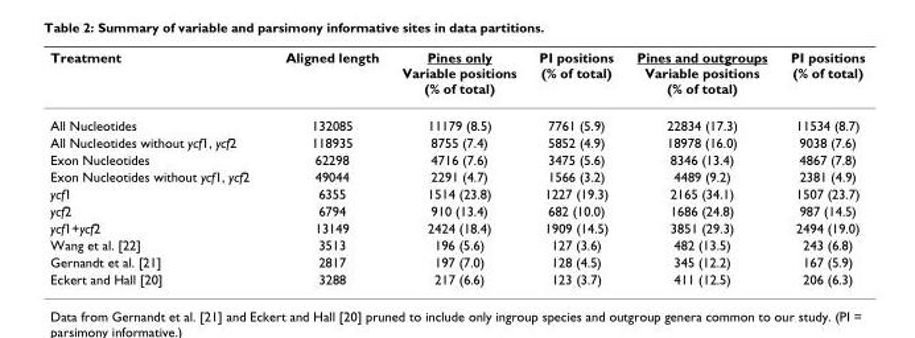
<table><thead><tr><td>Treatment</td><td>Aligned length</td><td>Pines only Variable positions (% of total)</td><td>PI positions (% of total)</td><td>Pines and outgroups Variable positions (% of total)</td><td>PI positions (% of total)</td></tr></thead><tbody><tr><td>All Nucleotides</td><td>132085</td><td>11179 (8.5)</td><td>7761 (5.9)</td><td>22834 (17.3)</td><td>11534 (8.7)</td></tr><tr><td>All Nucleotides without ycf1, ycf2</td><td>118935</td><td>8755 (7.4)</td><td>5852 (4.9)</td><td>18978 (16.0)</td><td>9038 (7.6)</td></tr><tr><td>Exon Nucleotides</td><td>62298</td><td>4716 (7.6)</td><td>3475 (5.6)</td><td>8346 (13.4)</td><td>4867 (7.8)</td></tr><tr><td>Exon Nucleotides without ycf1, ycf2</td><td>49044</td><td>2291 (4.7)</td><td>1566 (3.2)</td><td>4489 (9.2)</td><td>2381 (4.9)</td></tr><tr><td>ycf1</td><td>6355</td><td>1514 (23.8)</td><td>1227 (19.3)</td><td>2165 (34.1)</td><td>1507 (23.7)</td></tr><tr><td>ycf2</td><td>6794</td><td>910 (13.4)</td><td>682 (10.0)</td><td>1686 (24.8)</td><td>987 (14.5)</td></tr><tr><td>ycf1+ycf2</td><td>13149</td><td>2424 (18.4)</td><td>1909 (14.5)</td><td>3851 (29.3)</td><td>2494 (19.0)</td></tr><tr><td>Wang et al. [22]</td><td>3513</td><td>196 (5.6)</td><td>127 (3.6)</td><td>482 (13.5)</td><td>243 (6.8)</td></tr><tr><td>Gernandt et al. [21]</td><td>2817</td><td>197 (7.0)</td><td>128 (4.5)</td><td>345 (12.2)</td><td>167 (5.9)</td></tr><tr><td>Eckert and Hall [20]</td><td>3288</td><td>217 (6.6)</td><td>123 (3.7)</td><td>411 (12.5)</td><td>206 (6.3)</td></tr></tbody></table>